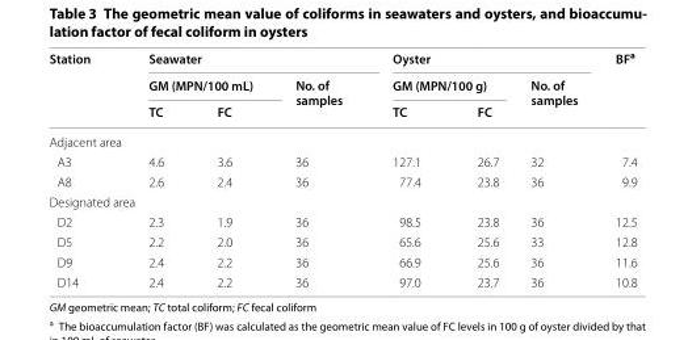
<table><thead><tr><td rowspan="3">Station</td><td colspan="3">Seawater</td><td colspan="3">Oyster</td><td rowspan="3">BF<sup>a</sup></td></tr><tr><td colspan="2">GM (MPN/100 mL)</td><td rowspan="2">No. of samples</td><td colspan="2">GM (MPN/100 g)</td><td rowspan="2">No. of samples</td></tr><tr><td>TC</td><td>FC</td><td>TC</td><td>FC</td></tr></thead><tbody><tr><td colspan="8">Adjacent area</td></tr><tr><td>A3</td><td>4.6</td><td>3.6</td><td>36</td><td>127.1</td><td>26.7</td><td>32</td><td>7.4</td></tr><tr><td>A8</td><td>2.6</td><td>2.4</td><td>36</td><td>77.4</td><td>23.8</td><td>36</td><td>9.9</td></tr><tr><td colspan="8">Designated area</td></tr><tr><td>D2</td><td>2.3</td><td>1.9</td><td>36</td><td>98.5</td><td>23.8</td><td>36</td><td>12.5</td></tr><tr><td>D5</td><td>2.2</td><td>2.0</td><td>36</td><td>65.6</td><td>25.6</td><td>33</td><td>12.8</td></tr><tr><td>D9</td><td>2.4</td><td>2.2</td><td>36</td><td>66.9</td><td>25.6</td><td>36</td><td>11.6</td></tr><tr><td>D14</td><td>2.4</td><td>2.2</td><td>36</td><td>97.0</td><td>23.7</td><td>36</td><td>10.8</td></tr></tbody></table>